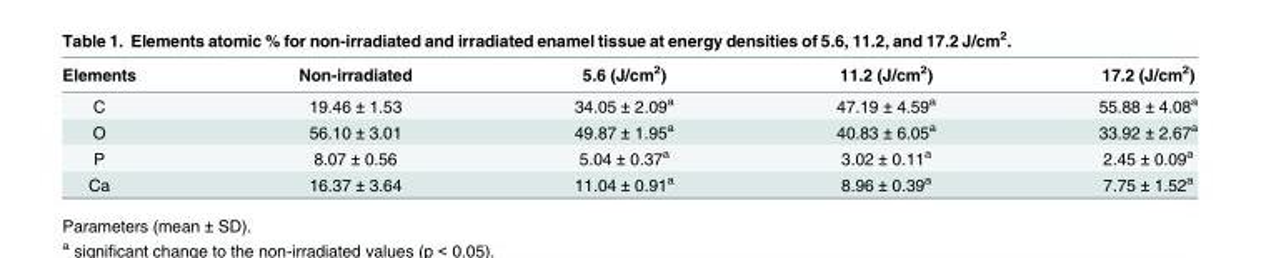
<table><thead><tr><td>Elements</td><td>Non-irradiated</td><td>5.6 (J/cm<sup>2</sup>)</td><td>11.2 (J/cm<sup>2</sup>)</td><td>17.2 (J/cm<sup>2</sup>)</td></tr></thead><tbody><tr><td>C</td><td>19.46 ± 1.53</td><td>34.05 ± 2.09<sup>a</sup></td><td>47.19 ± 4.59<sup>a</sup></td><td>55.88 ± 4.08<sup>a</sup></td></tr><tr><td>O</td><td>56.10 ± 3.01</td><td>49.87 ± 1.95<sup>a</sup></td><td>40.83 ± 6.05<sup>a</sup></td><td>33.92 ± 2.67<sup>a</sup></td></tr><tr><td>P</td><td>8.07 ± 0.56</td><td>5.04 ± 0.37<sup>a</sup></td><td>3.02 ± 0.11<sup>a</sup></td><td>2.45 ± 0.09<sup>a</sup></td></tr><tr><td>Ca</td><td>16.37 ± 3.64</td><td>11.04 ± 0.91<sup>a</sup></td><td>8.96 ± 0.39<sup>a</sup></td><td>7.75 ± 1.52<sup>a</sup></td></tr></tbody></table>